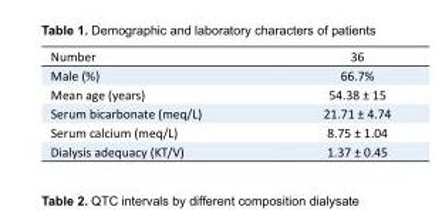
<table><tbody><tr><td>Number</td><td>36</td></tr><tr><td>Male (%)</td><td>66.7%</td></tr><tr><td>Mean age (years)</td><td>54.38 ± 15</td></tr><tr><td>Serum bicarbonate (meq/L)</td><td>21.71 ± 4.74</td></tr><tr><td>Serum calcium (meq/L)</td><td>8.75 ± 1.04</td></tr><tr><td>Dialysis adequacy (KT/V)</td><td>1.37 ± 0.45</td></tr></tbody></table>